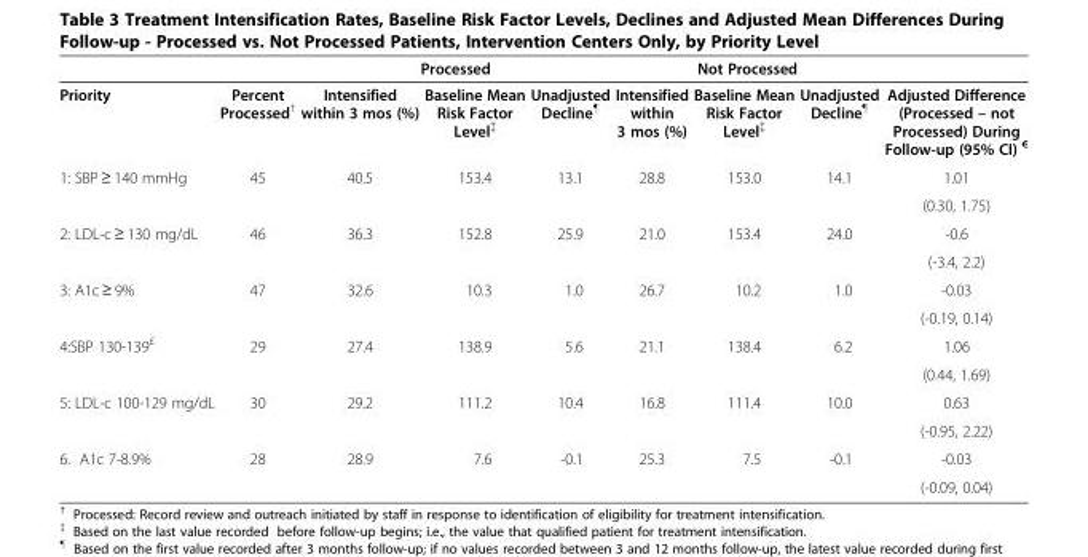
<table><thead><tr><td rowspan="2">Priority</td><td rowspan="2">Percent Processed<sup>†</sup></td><td colspan="3">Processed</td><td colspan="3">Not Processed</td><td rowspan="2">Adjusted Difference (Processed – not Processed) During Follow-up (95% CI) <sup>€</sup></td></tr><tr><td>Intensified within 3 mos (%)</td><td>Baseline Mean Risk Factor Level<sup>‡</sup></td><td>Unadjusted Decline<sup>¶</sup></td><td>Intensified within 3 mos (%)</td><td>Baseline Mean Risk Factor Level<sup>‡</sup></td><td>Unadjusted Decline<sup>¶</sup></td></tr></thead><tbody><tr><td rowspan="2">1: SBP ≥ 140 mmHg</td><td rowspan="2">45</td><td rowspan="2">40.5</td><td rowspan="2">153.4</td><td rowspan="2">13.1</td><td rowspan="2">28.8</td><td rowspan="2">153.0</td><td rowspan="2">14.1</td><td>1.01</td></tr><tr><td>(0.30, 1.75)</td></tr><tr><td rowspan="2">2: LDL-c ≥ 130 mg/dL</td><td rowspan="2">46</td><td rowspan="2">36.3</td><td rowspan="2">152.8</td><td rowspan="2">25.9</td><td rowspan="2">21.0</td><td rowspan="2">153.4</td><td rowspan="2">24.0</td><td>-0.6</td></tr><tr><td>(-3.4, 2.2)</td></tr><tr><td rowspan="2">3: A1c ≥ 9%</td><td rowspan="2">47</td><td rowspan="2">32.6</td><td rowspan="2">10.3</td><td rowspan="2">1.0</td><td rowspan="2">26.7</td><td rowspan="2">10.2</td><td rowspan="2">1.0</td><td>-0.03</td></tr><tr><td>(-0.19, 0.14)</td></tr><tr><td rowspan="2">4:SBP 130-139<sup>£</sup></td><td rowspan="2">29</td><td rowspan="2">27.4</td><td rowspan="2">138.9</td><td rowspan="2">5.6</td><td rowspan="2">21.1</td><td rowspan="2">138.4</td><td rowspan="2">6.2</td><td>1.06</td></tr><tr><td>(0.44, 1.69)</td></tr><tr><td rowspan="2">5: LDL-c 100-129 mg/dL</td><td rowspan="2">30</td><td rowspan="2">29.2</td><td rowspan="2">111.2</td><td rowspan="2">10.4</td><td rowspan="2">16.8</td><td rowspan="2">111.4</td><td rowspan="2">10.0</td><td>0.63</td></tr><tr><td>(-0.95, 2.22)</td></tr><tr><td rowspan="2">6. A1c 7-8.9%</td><td>28</td><td>28.9</td><td>7.6</td><td>-0.1</td><td>25.3</td><td>7.5</td><td>-0.1</td><td>-0.03</td></tr><tr><td></td><td></td><td></td><td></td><td></td><td></td><td></td><td>(-0.09, 0.04)</td></tr></tbody></table>